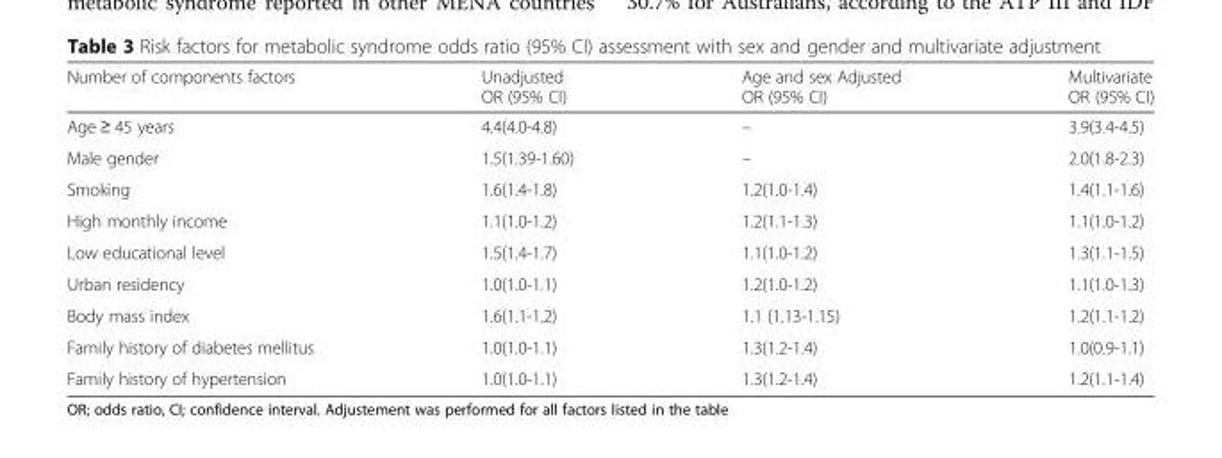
<table><thead><tr><td>Number of components factors</td><td>Unadjusted OR (95% CI)</td><td>Age and sex Adjusted OR (95% CI)</td><td>Multivariate OR (95% CI)</td></tr></thead><tbody><tr><td>Age ≥ 45 years</td><td>4.4(4.0-4.8)</td><td>–</td><td>3.9(3.4-4.5)</td></tr><tr><td>Male gender</td><td>1.5(1.39-1.60)</td><td>–</td><td>2.0(1.8-2.3)</td></tr><tr><td>Smoking</td><td>1.6(1.4-1.8)</td><td>1.2(1.0-1.4)</td><td>1.4(1.1-1.6)</td></tr><tr><td>High monthly income</td><td>1.1(1.0-1.2)</td><td>1.2(1.1-1.3)</td><td>1.1(1.0-1.2)</td></tr><tr><td>Low educational level</td><td>1.5(1.4-1.7)</td><td>1.1(1.0-1.2)</td><td>1.3(1.1-1.5)</td></tr><tr><td>Urban residency</td><td>1.0(1.0-1.1)</td><td>1.2(1.0-1.2)</td><td>1.1(1.0-1.3)</td></tr><tr><td>Body mass index</td><td>1.6(1.1-1.2)</td><td>1.1 (1.13-1.15)</td><td>1.2(1.1-1.2)</td></tr><tr><td>Family history of diabetes mellitus</td><td>1.0(1.0-1.1)</td><td>1.3(1.2-1.4)</td><td>1.0(0.9-1.1)</td></tr><tr><td>Family history of hypertension</td><td>1.0(1.0-1.1)</td><td>1.3(1.2-1.4)</td><td>1.2(1.1-1.4)</td></tr></tbody></table>